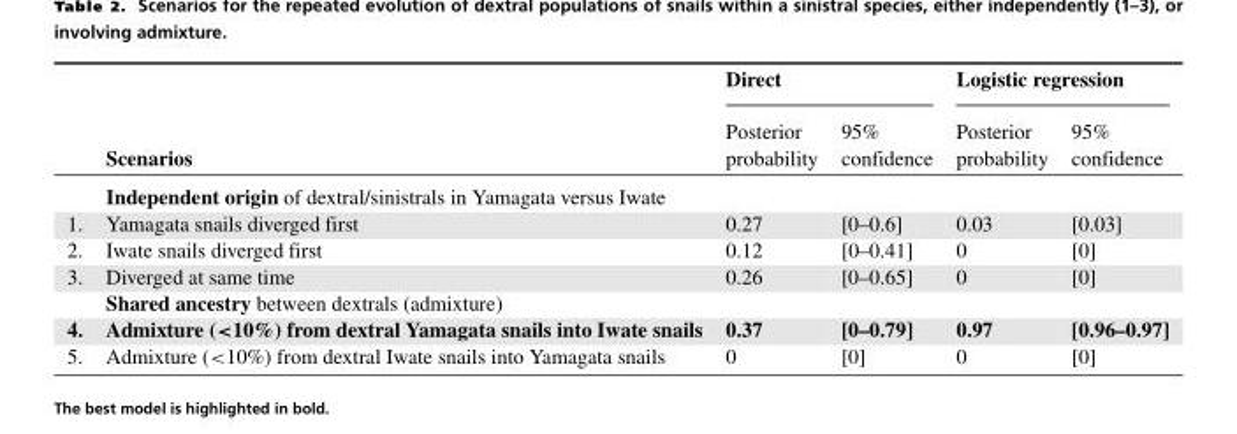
<table><thead><tr><td rowspan="3"></td><td rowspan="3">Scenarios</td><td colspan="2">Direct</td><td colspan="2">Logistic regression</td></tr><tr><td rowspan="2">Posterior probability</td><td rowspan="2">95% confidence</td><td rowspan="2">Posterior probability</td><td rowspan="2">95% confidence</td></tr><tr></tr></thead><tbody><tr><td></td><td colspan="5">Independent origin of dextral/sinistrals in Yamagata versus Iwate</td></tr><tr><td>1.</td><td>Yamagata snails diverged first</td><td>0.27</td><td>[0–0.6]</td><td>0.03</td><td>[0.03]</td></tr><tr><td>2.</td><td>Iwate snails diverged first</td><td>0.12</td><td>[0–0.41]</td><td>0</td><td>[0]</td></tr><tr><td rowspan="2">3.</td><td>Diverged at same time</td><td>0.26</td><td>[0–0.65]</td><td>0</td><td>[0]</td></tr><tr><td colspan="5">Shared ancestry between dextrals (admixture)</td></tr><tr><td>4.</td><td>Admixture (&lt;10%) from dextral Yamagata snails into Iwate snails</td><td>0.37</td><td>[0–0.79]</td><td>0.97</td><td>[0.96–0.97]</td></tr><tr><td>5.</td><td>Admixture (&lt;10%) from dextral Iwate snails into Yamagata snails</td><td>0</td><td>[0]</td><td>0</td><td>[0]</td></tr></tbody></table>